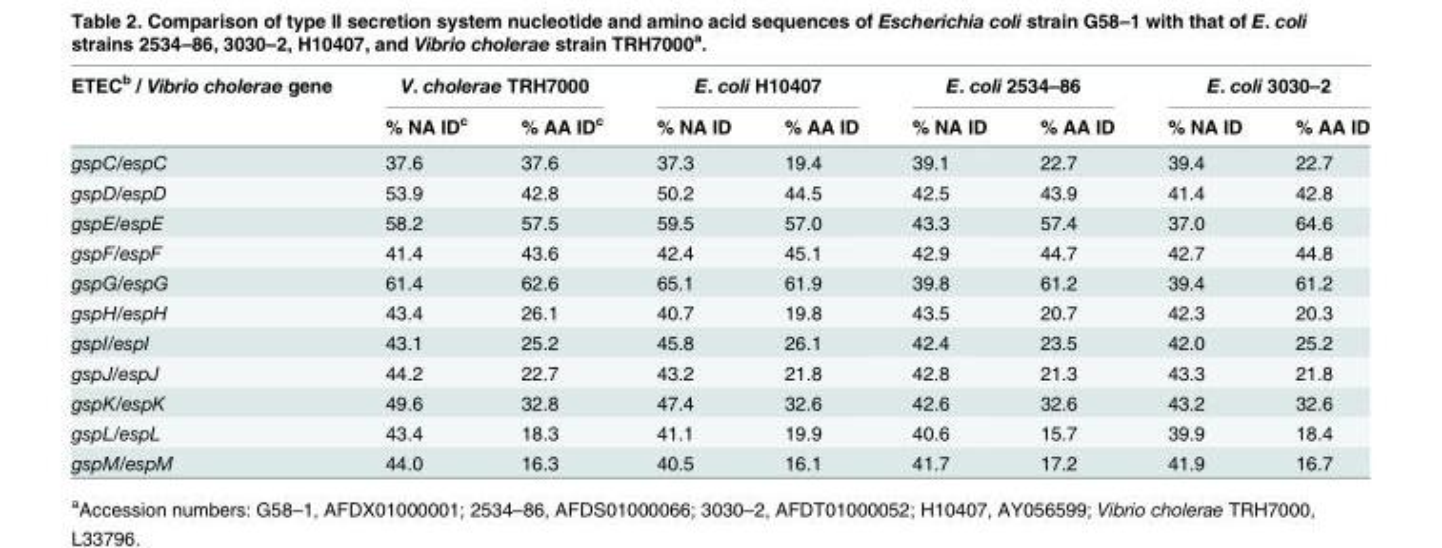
<table><thead><tr><td rowspan="2">ETEC<sup>b</sup> / Vibrio cholerae gene</td><td colspan="2">V. cholerae TRH7000</td><td colspan="2">E. coli H10407</td><td colspan="2">E. coli 2534–86</td><td colspan="2">E. coli 3030–2</td></tr><tr><td>% NA ID<sup>c</sup></td><td>% AA ID<sup>c</sup></td><td>% NA ID</td><td>% AA ID</td><td>% NA ID</td><td>% AA ID</td><td>% NA ID</td><td>% AA ID</td></tr></thead><tbody><tr><td>gspC/espC</td><td>37.6</td><td>37.6</td><td>37.3</td><td>19.4</td><td>39.1</td><td>22.7</td><td>39.4</td><td>22.7</td></tr><tr><td>gspD/espD</td><td>53.9</td><td>42.8</td><td>50.2</td><td>44.5</td><td>42.5</td><td>43.9</td><td>41.4</td><td>42.8</td></tr><tr><td>gspE/espE</td><td>58.2</td><td>57.5</td><td>59.5</td><td>57.0</td><td>43.3</td><td>57.4</td><td>37.0</td><td>64.6</td></tr><tr><td>gspF/espF</td><td>41.4</td><td>43.6</td><td>42.4</td><td>45.1</td><td>42.9</td><td>44.7</td><td>42.7</td><td>44.8</td></tr><tr><td>gspG/espG</td><td>61.4</td><td>62.6</td><td>65.1</td><td>61.9</td><td>39.8</td><td>61.2</td><td>39.4</td><td>61.2</td></tr><tr><td>gspH/espH</td><td>43.4</td><td>26.1</td><td>40.7</td><td>19.8</td><td>43.5</td><td>20.7</td><td>42.3</td><td>20.3</td></tr><tr><td>gspI/espI</td><td>43.1</td><td>25.2</td><td>45.8</td><td>26.1</td><td>42.4</td><td>23.5</td><td>42.0</td><td>25.2</td></tr><tr><td>gspJ/espJ</td><td>44.2</td><td>22.7</td><td>43.2</td><td>21.8</td><td>42.8</td><td>21.3</td><td>43.3</td><td>21.8</td></tr><tr><td>gspK/espK</td><td>49.6</td><td>32.8</td><td>47.4</td><td>32.6</td><td>42.6</td><td>32.6</td><td>43.2</td><td>32.6</td></tr><tr><td>gspL/espL</td><td>43.4</td><td>18.3</td><td>41.1</td><td>19.9</td><td>40.6</td><td>15.7</td><td>39.9</td><td>18.4</td></tr><tr><td>gspM/espM</td><td>44.0</td><td>16.3</td><td>40.5</td><td>16.1</td><td>41.7</td><td>17.2</td><td>41.9</td><td>16.7</td></tr></tbody></table>